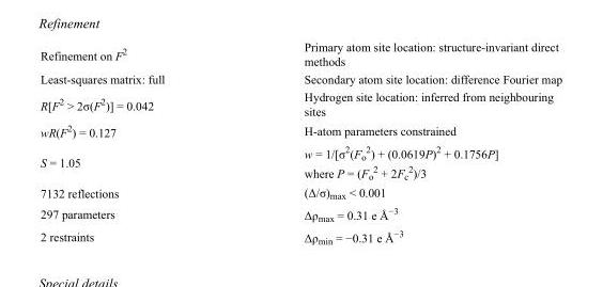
<table><tbody><tr><td>Refinement on F<sup>2</sup></td><td>Primary atom site location: structure-invariant direct methods</td></tr><tr><td>Least-squares matrix: full</td><td>Secondary atom site location: difference Fourier map</td></tr><tr><td>R[F<sup>2</sup> &gt; 2σ(F<sup>2</sup>)] = 0.042</td><td>Hydrogen site location: inferred from neighbouring sites</td></tr><tr><td>wR(F<sup>2</sup>) = 0.127</td><td>H-atom parameters constrained</td></tr><tr><td>S = 1.05</td><td>w = 1/[σ<sup>2</sup>(F<sub>o</sub> <sup>2</sup>) + (0.0619P)<sup>2</sup> + 0.1756P] where P = (F<sub>o</sub> <sup>2</sup> + 2F<sub>c</sub> <sup>2</sup>)/3</td></tr><tr><td>7132 reflections</td><td>(Δ/σ)<sub>max</sub> &lt; 0.001</td></tr><tr><td>297 parameters</td><td>Δρ<sub>max</sub> = 0.31 e Å<sup>−3</sup></td></tr><tr><td>2 restraints</td><td>Δρ<sub>min</sub> = −0.31 e Å<sup>−3</sup></td></tr></tbody></table>